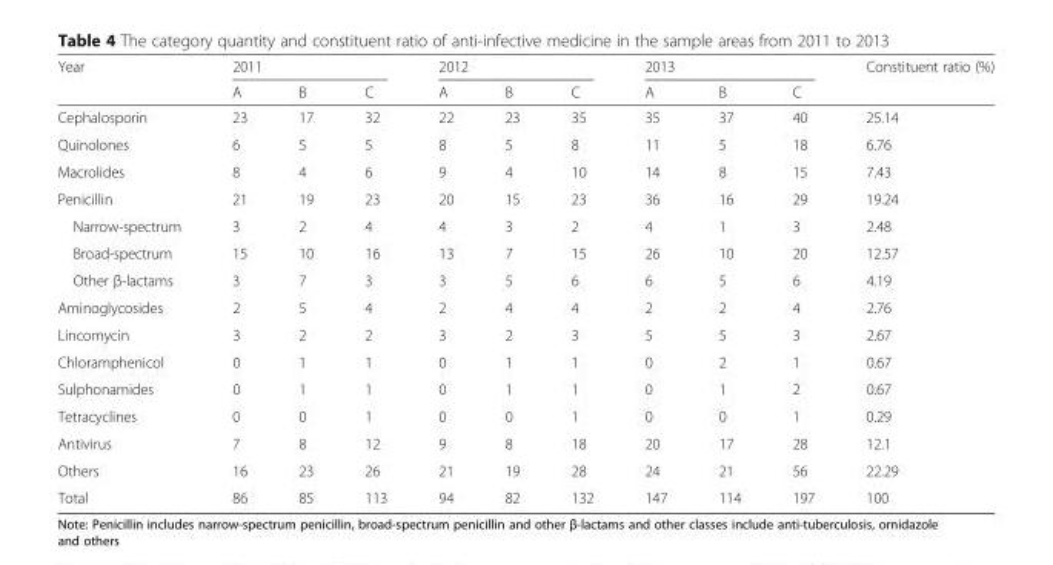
<table><thead><tr><td rowspan="2">Year</td><td colspan="3">2011</td><td colspan="3">2012</td><td colspan="3">2013</td><td rowspan="2">Constituent ratio (%)</td></tr><tr><td>A</td><td>B</td><td>C</td><td>A</td><td>B</td><td>C</td><td>A</td><td>B</td><td>C</td></tr></thead><tbody><tr><td>Cephalosporin</td><td>23</td><td>17</td><td>32</td><td>22</td><td>23</td><td>35</td><td>35</td><td>37</td><td>40</td><td>25.14</td></tr><tr><td>Quinolones</td><td>6</td><td>5</td><td>5</td><td>8</td><td>5</td><td>8</td><td>11</td><td>5</td><td>18</td><td>6.76</td></tr><tr><td>Macrolides</td><td>8</td><td>4</td><td>6</td><td>9</td><td>4</td><td>10</td><td>14</td><td>8</td><td>15</td><td>7.43</td></tr><tr><td>Penicillin</td><td>21</td><td>19</td><td>23</td><td>20</td><td>15</td><td>23</td><td>36</td><td>16</td><td>29</td><td>19.24</td></tr><tr><td>Narrow-spectrum</td><td>3</td><td>2</td><td>4</td><td>4</td><td>3</td><td>2</td><td>4</td><td>1</td><td>3</td><td>2.48</td></tr><tr><td>Broad-spectrum</td><td>15</td><td>10</td><td>16</td><td>13</td><td>7</td><td>15</td><td>26</td><td>10</td><td>20</td><td>12.57</td></tr><tr><td>Other β-lactams</td><td>3</td><td>7</td><td>3</td><td>3</td><td>5</td><td>6</td><td>6</td><td>5</td><td>6</td><td>4.19</td></tr><tr><td>Aminoglycosides</td><td>2</td><td>5</td><td>4</td><td>2</td><td>4</td><td>4</td><td>2</td><td>2</td><td>4</td><td>2.76</td></tr><tr><td>Lincomycin</td><td>3</td><td>2</td><td>2</td><td>3</td><td>2</td><td>3</td><td>5</td><td>5</td><td>3</td><td>2.67</td></tr><tr><td>Chloramphenicol</td><td>0</td><td>1</td><td>1</td><td>0</td><td>1</td><td>1</td><td>0</td><td>2</td><td>1</td><td>0.67</td></tr><tr><td>Sulphonamides</td><td>0</td><td>1</td><td>1</td><td>0</td><td>1</td><td>1</td><td>0</td><td>1</td><td>2</td><td>0.67</td></tr><tr><td>Tetracyclines</td><td>0</td><td>0</td><td>1</td><td>0</td><td>0</td><td>1</td><td>0</td><td>0</td><td>1</td><td>0.29</td></tr><tr><td>Antivirus</td><td>7</td><td>8</td><td>12</td><td>9</td><td>8</td><td>18</td><td>20</td><td>17</td><td>28</td><td>12.1</td></tr><tr><td>Others</td><td>16</td><td>23</td><td>26</td><td>21</td><td>19</td><td>28</td><td>24</td><td>21</td><td>56</td><td>22.29</td></tr><tr><td>Total</td><td>86</td><td>85</td><td>113</td><td>94</td><td>82</td><td>132</td><td>147</td><td>114</td><td>197</td><td>100</td></tr></tbody></table>